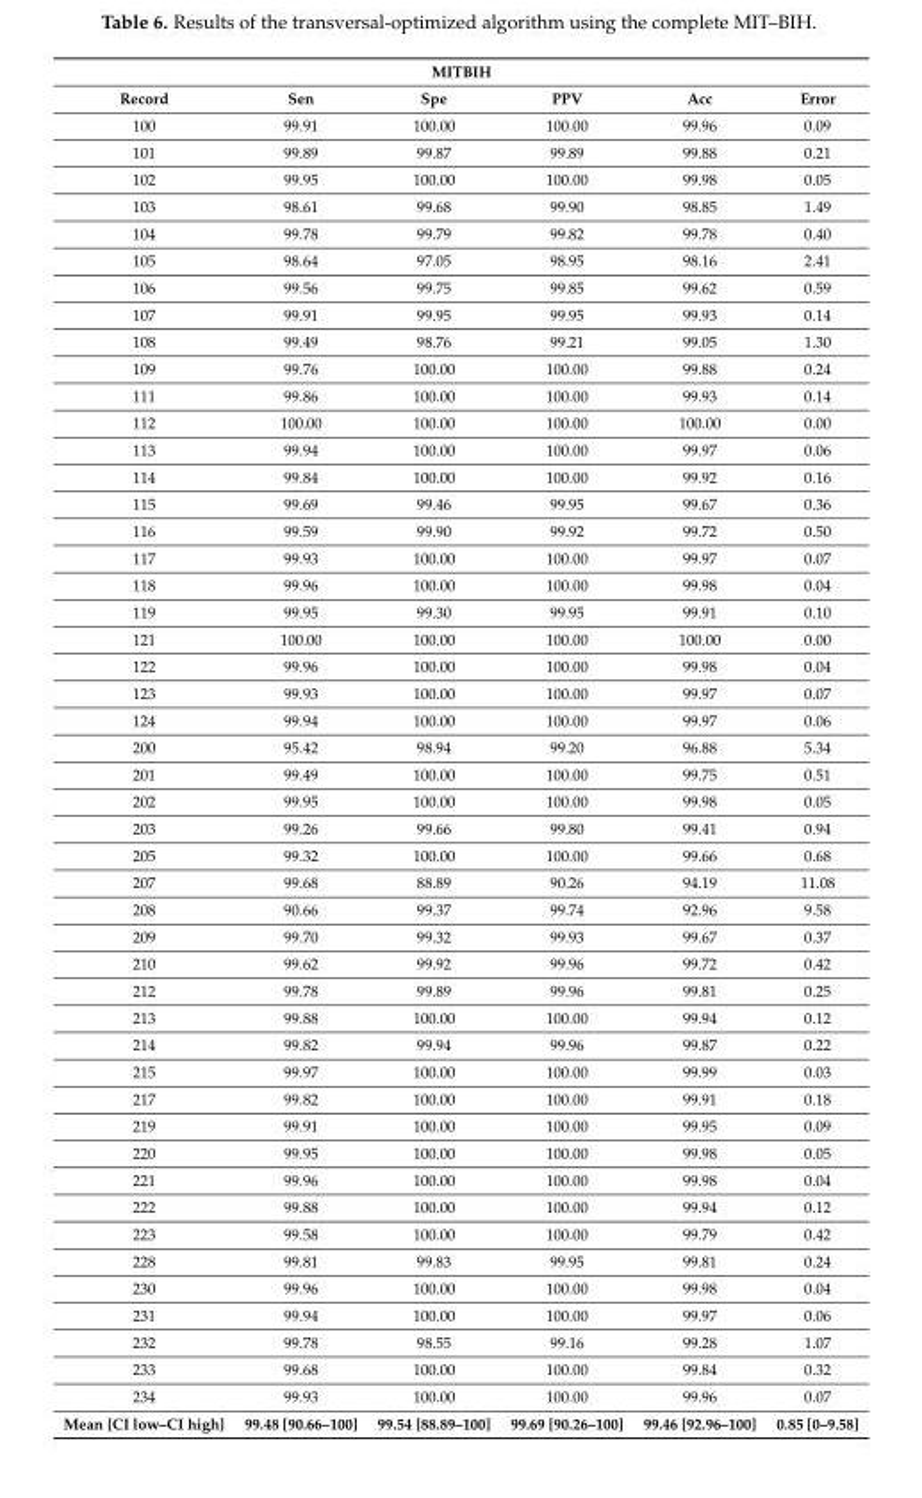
<table><thead><tr><td colspan="6">MITBIH</td></tr><tr><td>Record</td><td>Sen</td><td>Spe</td><td>PPV</td><td>Acc</td><td>Error</td></tr></thead><tbody><tr><td>100</td><td>99.91</td><td>100.00</td><td>100.00</td><td>99.96</td><td>0.09</td></tr><tr><td>101</td><td>99.89</td><td>99.87</td><td>99.89</td><td>99.88</td><td>0.21</td></tr><tr><td>102</td><td>99.95</td><td>100.00</td><td>100.00</td><td>99.98</td><td>0.05</td></tr><tr><td>103</td><td>98.61</td><td>99.68</td><td>99.90</td><td>98.85</td><td>1.49</td></tr><tr><td>104</td><td>99.78</td><td>99.79</td><td>99.82</td><td>99.78</td><td>0.40</td></tr><tr><td>105</td><td>98.64</td><td>97.05</td><td>98.95</td><td>98.16</td><td>2.41</td></tr><tr><td>106</td><td>99.56</td><td>99.75</td><td>99.85</td><td>99.62</td><td>0.59</td></tr><tr><td>107</td><td>99.91</td><td>99.95</td><td>99.95</td><td>99.93</td><td>0.14</td></tr><tr><td>108</td><td>99.49</td><td>98.76</td><td>99.21</td><td>99.05</td><td>1.30</td></tr><tr><td>109</td><td>99.76</td><td>100.00</td><td>100.00</td><td>99.88</td><td>0.24</td></tr><tr><td>111</td><td>99.86</td><td>100.00</td><td>100.00</td><td>99.93</td><td>0.14</td></tr><tr><td>112</td><td>100.00</td><td>100.00</td><td>100.00</td><td>100.00</td><td>0.00</td></tr><tr><td>113</td><td>99.94</td><td>100.00</td><td>100.00</td><td>99.97</td><td>0.06</td></tr><tr><td>114</td><td>99.84</td><td>100.00</td><td>100.00</td><td>99.92</td><td>0.16</td></tr><tr><td>115</td><td>99.69</td><td>99.46</td><td>99.95</td><td>99.67</td><td>0.36</td></tr><tr><td>116</td><td>99.59</td><td>99.90</td><td>99.92</td><td>99.72</td><td>0.50</td></tr><tr><td>117</td><td>99.93</td><td>100.00</td><td>100.00</td><td>99.97</td><td>0.07</td></tr><tr><td>118</td><td>99.96</td><td>100.00</td><td>100.00</td><td>99.98</td><td>0.04</td></tr><tr><td>119</td><td>99.95</td><td>99.30</td><td>99.95</td><td>99.91</td><td>0.10</td></tr><tr><td>121</td><td>100.00</td><td>100.00</td><td>100.00</td><td>100.00</td><td>0.00</td></tr><tr><td>122</td><td>99.96</td><td>100.00</td><td>100.00</td><td>99.98</td><td>0.04</td></tr><tr><td>123</td><td>99.93</td><td>100.00</td><td>100.00</td><td>99.97</td><td>0.07</td></tr><tr><td>124</td><td>99.94</td><td>100.00</td><td>100.00</td><td>99.97</td><td>0.06</td></tr><tr><td>200</td><td>95.42</td><td>98.94</td><td>99.20</td><td>96.88</td><td>5.34</td></tr><tr><td>201</td><td>99.49</td><td>100.00</td><td>100.00</td><td>99.75</td><td>0.51</td></tr><tr><td>202</td><td>99.95</td><td>100.00</td><td>100.00</td><td>99.98</td><td>0.05</td></tr><tr><td>203</td><td>99.26</td><td>99.66</td><td>99.80</td><td>99.41</td><td>0.94</td></tr><tr><td>205</td><td>99.32</td><td>100.00</td><td>100.00</td><td>99.66</td><td>0.68</td></tr><tr><td>207</td><td>99.68</td><td>88.89</td><td>90.26</td><td>94.19</td><td>11.08</td></tr><tr><td>208</td><td>90.66</td><td>99.37</td><td>99.74</td><td>92.96</td><td>9.58</td></tr><tr><td>209</td><td>99.70</td><td>99.32</td><td>99.93</td><td>99.67</td><td>0.37</td></tr><tr><td>210</td><td>99.62</td><td>99.92</td><td>99.96</td><td>99.72</td><td>0.42</td></tr><tr><td>212</td><td>99.78</td><td>99.89</td><td>99.96</td><td>99.81</td><td>0.25</td></tr><tr><td>213</td><td>99.88</td><td>100.00</td><td>100.00</td><td>99.94</td><td>0.12</td></tr><tr><td>214</td><td>99.82</td><td>99.94</td><td>99.96</td><td>99.87</td><td>0.22</td></tr><tr><td>215</td><td>99.97</td><td>100.00</td><td>100.00</td><td>99.99</td><td>0.03</td></tr><tr><td>217</td><td>99.82</td><td>100.00</td><td>100.00</td><td>99.91</td><td>0.18</td></tr><tr><td>219</td><td>99.91</td><td>100.00</td><td>100.00</td><td>99.95</td><td>0.09</td></tr><tr><td>220</td><td>99.95</td><td>100.00</td><td>100.00</td><td>99.98</td><td>0.05</td></tr><tr><td>221</td><td>99.96</td><td>100.00</td><td>100.00</td><td>99.98</td><td>0.04</td></tr><tr><td>222</td><td>99.88</td><td>100.00</td><td>100.00</td><td>99.94</td><td>0.12</td></tr><tr><td>223</td><td>99.58</td><td>100.00</td><td>100.00</td><td>99.79</td><td>0.42</td></tr><tr><td>228</td><td>99.81</td><td>99.83</td><td>99.95</td><td>99.81</td><td>0.24</td></tr><tr><td>230</td><td>99.96</td><td>100.00</td><td>100.00</td><td>99.98</td><td>0.04</td></tr><tr><td>231</td><td>99.94</td><td>100.00</td><td>100.00</td><td>99.97</td><td>0.06</td></tr><tr><td>232</td><td>99.78</td><td>98.55</td><td>99.16</td><td>99.28</td><td>1.07</td></tr><tr><td>233</td><td>99.68</td><td>100.00</td><td>100.00</td><td>99.84</td><td>0.32</td></tr><tr><td>234</td><td>99.93</td><td>100.00</td><td>100.00</td><td>99.96</td><td>0.07</td></tr><tr><td>Mean [CI low–CI high]</td><td>99.48 [90.66–100]</td><td>99.54 [88.89–100]</td><td>99.69 [90.26–100]</td><td>99.46 [92.96–100]</td><td>0.85 [0–9.58]</td></tr></tbody></table>